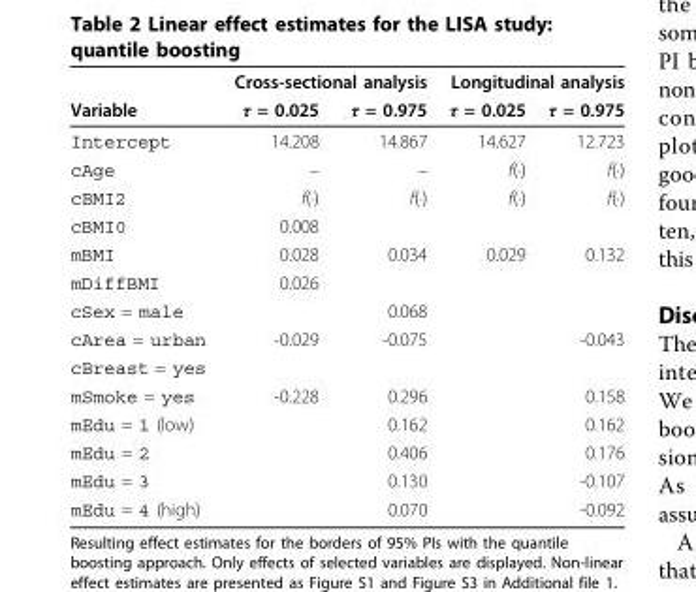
<table><thead><tr><td rowspan="2">Variable</td><td colspan="2">Cross-sectional analysis</td><td colspan="2">Longitudinal analysis</td></tr><tr><td>τ = 0.025</td><td>τ = 0.975</td><td>τ = 0.025</td><td>τ = 0.975</td></tr></thead><tbody><tr><td>Intercept</td><td>14.208</td><td>14.867</td><td>14.627</td><td>12.723</td></tr><tr><td>cAge</td><td>–</td><td>–</td><td>f(·)</td><td>f(·)</td></tr><tr><td>cBMI2</td><td>f(·)</td><td>f(·)</td><td>f(·)</td><td>f(·)</td></tr><tr><td>cBMI0</td><td>0.008</td><td></td><td></td><td></td></tr><tr><td>mBMI</td><td>0.028</td><td>0.034</td><td>0.029</td><td>0.132</td></tr><tr><td>mDiffBMI</td><td>0.026</td><td></td><td></td><td></td></tr><tr><td>cSex = male</td><td></td><td>0.068</td><td></td><td></td></tr><tr><td>cArea = urban</td><td>-0.029</td><td>-0.075</td><td></td><td>-0.043</td></tr><tr><td colspan="5">cBreast = yes</td></tr><tr><td>mSmoke = yes</td><td>-0.228</td><td>0.296</td><td></td><td>0.158</td></tr><tr><td>mEdu = 1 (low)</td><td></td><td>0.162</td><td></td><td>0.162</td></tr><tr><td>mEdu = 2</td><td></td><td>0.406</td><td></td><td>0.176</td></tr><tr><td>mEdu = 3</td><td></td><td>0.130</td><td></td><td>-0.107</td></tr><tr><td>mEdu = 4 (high)</td><td></td><td>0.070</td><td></td><td>-0.092</td></tr></tbody></table>